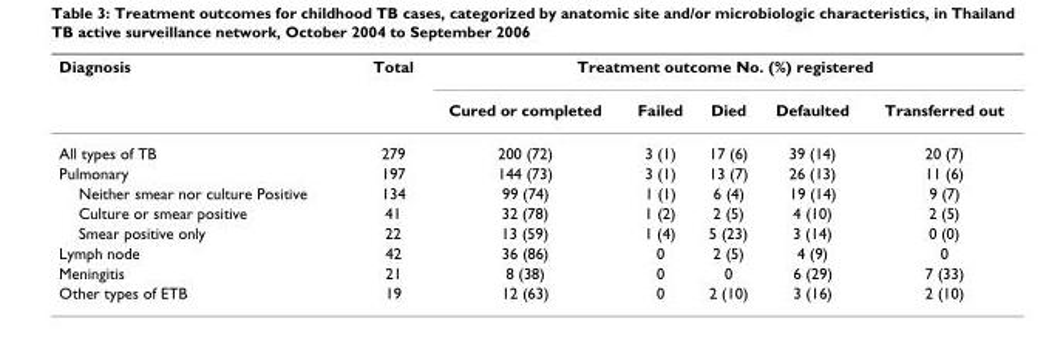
<table><thead><tr><td rowspan="2">Diagnosis</td><td rowspan="2">Total</td><td colspan="5">Treatment outcome No. (%) registered</td></tr><tr><td>Cured or completed</td><td>Failed</td><td>Died</td><td>Defaulted</td><td>Transferred out</td></tr></thead><tbody><tr><td>All types of TB</td><td>279</td><td>200 (72)</td><td>3 (1)</td><td>17 (6)</td><td>39 (14)</td><td>20 (7)</td></tr><tr><td>Pulmonary</td><td>197</td><td>144 (73)</td><td>3 (1)</td><td>13 (7)</td><td>26 (13)</td><td>11 (6)</td></tr><tr><td>Neither smear nor culture Positive</td><td>134</td><td>99 (74)</td><td>1 (1)</td><td>6 (4)</td><td>19 (14)</td><td>9 (7)</td></tr><tr><td>Culture or smear positive</td><td>41</td><td>32 (78)</td><td>1 (2)</td><td>2 (5)</td><td>4 (10)</td><td>2 (5)</td></tr><tr><td>Smear positive only</td><td>22</td><td>13 (59)</td><td>1 (4)</td><td>5 (23)</td><td>3 (14)</td><td>0 (0)</td></tr><tr><td>Lymph node</td><td>42</td><td>36 (86)</td><td>0</td><td>2 (5)</td><td>4 (9)</td><td>0</td></tr><tr><td>Meningitis</td><td>21</td><td>8 (38)</td><td>0</td><td>0</td><td>6 (29)</td><td>7 (33)</td></tr><tr><td>Other types of ETB</td><td>19</td><td>12 (63)</td><td>0</td><td>2 (10)</td><td>3 (16)</td><td>2 (10)</td></tr></tbody></table>